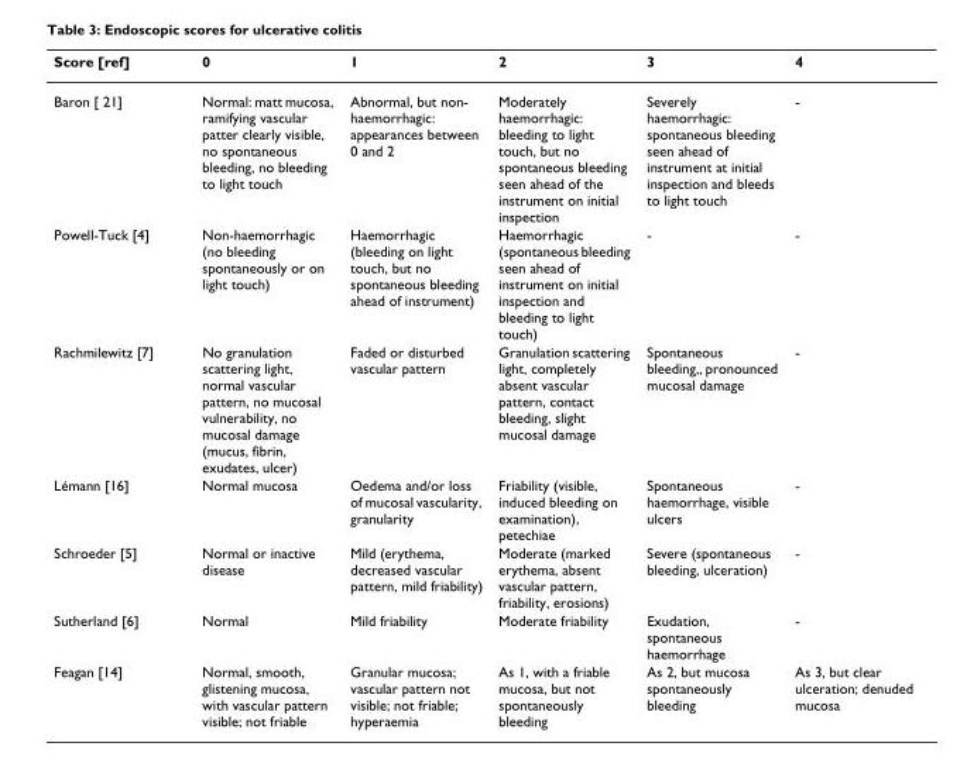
<table><thead><tr><td>Score [ref]</td><td>0</td><td>1</td><td>2</td><td>3</td><td>4</td></tr></thead><tbody><tr><td>Baron [ 21]</td><td>Normal: matt mucosa, ramifying vascular patter clearly visible, no spontaneous bleeding, no bleeding to light touch</td><td>Abnormal, but non- haemorrhagic: appearances between 0 and 2</td><td>Moderately haemorrhagic: bleeding to light touch, but no spontaneous bleeding seen ahead of the instrument on initial inspection</td><td>Severely haemorrhagic: spontaneous bleeding seen ahead of instrument at initial inspection and bleeds to light touch</td><td>-</td></tr><tr><td>Powell-Tuck [4]</td><td>Non-haemorrhagic (no bleeding spontaneously or on light touch)</td><td>Haemorrhagic (bleeding on light touch, but no spontaneous bleeding ahead of instrument)</td><td>Haemorrhagic (spontaneous bleeding seen ahead of instrument on initial inspection and bleeding to light touch)</td><td>-</td><td>-</td></tr><tr><td>Rachmilewitz [7]</td><td>No granulation scattering light, normal vascular pattern, no mucosal vulnerability, no mucosal damage (mucus, fibrin, exudates, ulcer)</td><td>Faded or disturbed vascular pattern</td><td>Granulation scattering light, completely absent vascular pattern, contact bleeding, slight mucosal damage</td><td>Spontaneous bleeding,, pronounced mucosal damage</td><td>-</td></tr><tr><td>Lémann [16]</td><td>Normal mucosa</td><td>Oedema and/or loss of mucosal vascularity, granularity</td><td>Friability (visible, induced bleeding on examination), petechiae</td><td>Spontaneous haemorrhage, visible ulcers</td><td>-</td></tr><tr><td>Schroeder [5]</td><td>Normal or inactive disease</td><td>Mild (erythema, decreased vascular pattern, mild friability)</td><td>Moderate (marked erythema, absent vascular pattern, friability, erosions)</td><td>Severe (spontaneous bleeding, ulceration)</td><td>-</td></tr><tr><td>Sutherland [6]</td><td>Normal</td><td>Mild friability</td><td>Moderate friability</td><td>Exudation, spontaneous haemorrhage</td><td>-</td></tr><tr><td>Feagan [14]</td><td>Normal, smooth, glistening mucosa, with vascular pattern visible; not friable</td><td>Granular mucosa; vascular pattern not visible; not friable; hyperaemia</td><td>As 1, with a friable mucosa, but not spontaneously bleeding</td><td>As 2, but mucosa spontaneously bleeding</td><td>As 3, but clear ulceration; denuded mucosa</td></tr></tbody></table>